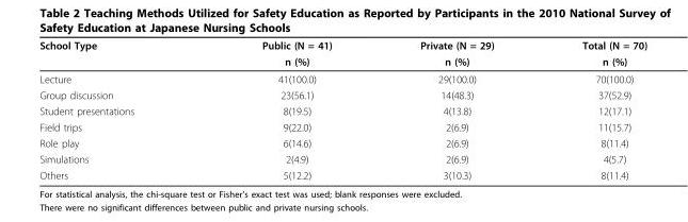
<table><thead><tr><td rowspan="2">School Type</td><td rowspan="2">Public (N = 41) n (%)</td><td rowspan="2">Private (N = 29) n (%)</td><td rowspan="2">Total (N = 70) n (%)</td></tr><tr></tr></thead><tbody><tr><td>Lecture</td><td>41(100.0)</td><td>29(100.0)</td><td>70(100.0)</td></tr><tr><td>Group discussion</td><td>23(56.1)</td><td>14(48.3)</td><td>37(52.9)</td></tr><tr><td>Student presentations</td><td>8(19.5)</td><td>4(13.8)</td><td>12(17.1)</td></tr><tr><td>Field trips</td><td>9(22.0)</td><td>2(6.9)</td><td>11(15.7)</td></tr><tr><td>Role play</td><td>6(14.6)</td><td>2(6.9)</td><td>8(11.4)</td></tr><tr><td>Simulations</td><td>2(4.9)</td><td>2(6.9)</td><td>4(5.7)</td></tr><tr><td>Others</td><td>5(12.2)</td><td>3(10.3)</td><td>8(11.4)</td></tr></tbody></table>